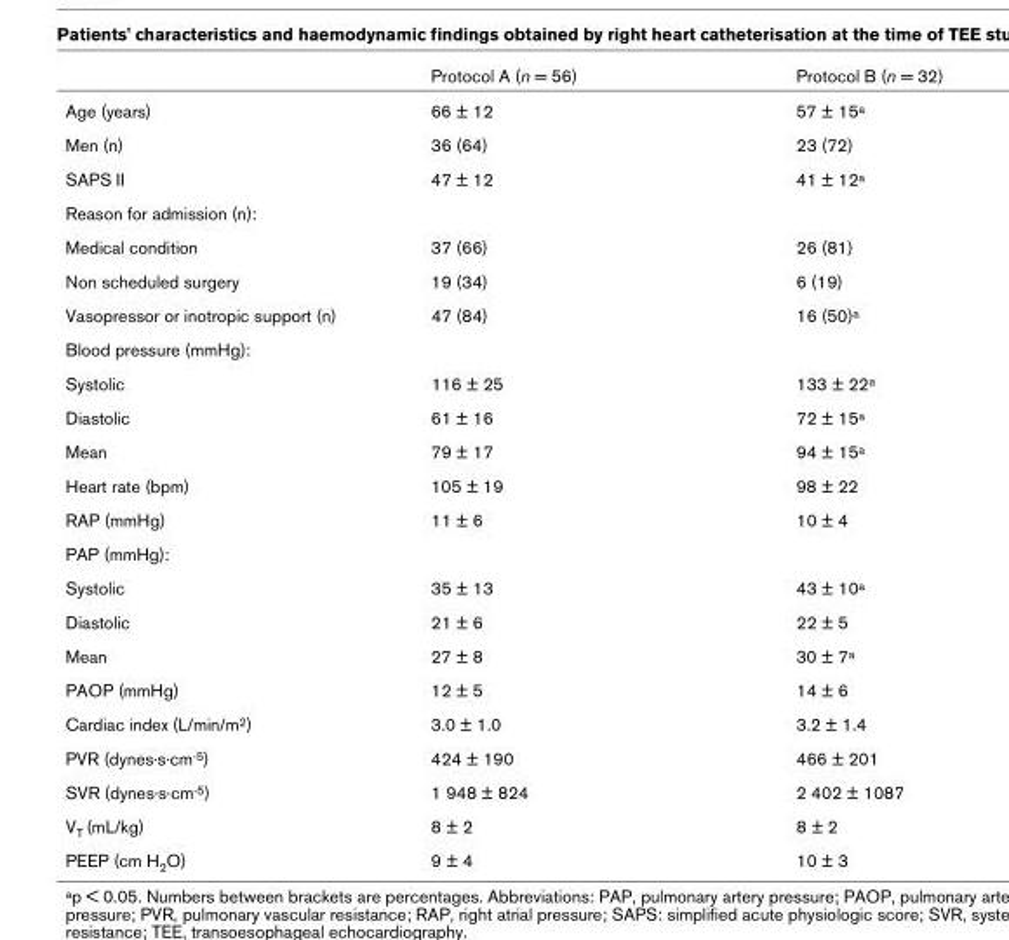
<table><thead><tr><td></td><td>Protocol A (n = 56)</td><td>Protocol B (n = 32)</td></tr></thead><tbody><tr><td>Age (years)</td><td>66 ± 12</td><td>57 ± 15<sup>a</sup></td></tr><tr><td>Men (n)</td><td>36 (64)</td><td>23 (72)</td></tr><tr><td>SAPS II</td><td>47 ± 12</td><td>41 ± 12<sup>a</sup></td></tr><tr><td colspan="3">Reason for admission (n):</td></tr><tr><td>Medical condition</td><td>37 (66)</td><td>26 (81)</td></tr><tr><td>Non scheduled surgery</td><td>19 (34)</td><td>6 (19)</td></tr><tr><td>Vasopressor or inotropic support (n)</td><td>47 (84)</td><td>16 (50)<sup>a</sup></td></tr><tr><td colspan="3">Blood pressure (mmHg):</td></tr><tr><td>Systolic</td><td>116 ± 25</td><td>133 ± 22<sup>a</sup></td></tr><tr><td>Diastolic</td><td>61 ± 16</td><td>72 ± 15<sup>a</sup></td></tr><tr><td>Mean</td><td>79 ± 17</td><td>94 ± 15<sup>a</sup></td></tr><tr><td>Heart rate (bpm)</td><td>105 ± 19</td><td>98 ± 22</td></tr><tr><td>RAP (mmHg)</td><td>11 ± 6</td><td>10 ± 4</td></tr><tr><td colspan="3">PAP (mmHg):</td></tr><tr><td>Systolic</td><td>35 ± 13</td><td>43 ± 10<sup>a</sup></td></tr><tr><td>Diastolic</td><td>21 ± 6</td><td>22 ± 5</td></tr><tr><td>Mean</td><td>27 ± 8</td><td>30 ± 7<sup>a</sup></td></tr><tr><td>PAOP (mmHg)</td><td>12 ± 5</td><td>14 ± 6</td></tr><tr><td>Cardiac index (L/min/m<sup>2</sup>)</td><td>3.0 ± 1.0</td><td>3.2 ± 1.4</td></tr><tr><td>PVR (dynes·s·cm<sup>-5</sup>)</td><td>424 ± 190</td><td>466 ± 201</td></tr><tr><td>SVR (dynes·s·cm<sup>-5</sup>)</td><td>1 948 ± 824</td><td>2 402 ± 1087</td></tr><tr><td>V<sub>T</sub> (mL/kg)</td><td>8 ± 2</td><td>8 ± 2</td></tr><tr><td>PEEP (cm H<sub>2</sub>O)</td><td>9 ± 4</td><td>10 ± 3</td></tr></tbody></table>